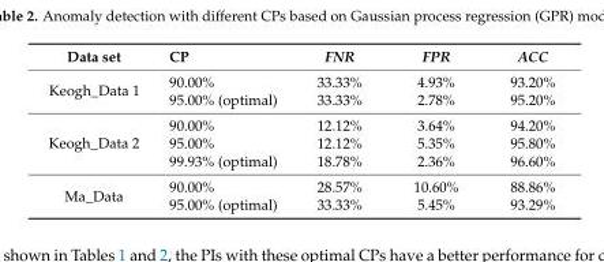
<table><thead><tr><td>Data set</td><td>CP</td><td>FNR</td><td>FPR</td><td>ACC</td></tr></thead><tbody><tr><td rowspan="2">Keogh_Data 1</td><td>90.00%</td><td>33.33%</td><td>4.93%</td><td>93.20%</td></tr><tr><td>95.00% (optimal)</td><td>33.33%</td><td>2.78%</td><td>95.20%</td></tr><tr><td rowspan="3">Keogh_Data 2</td><td>90.00%</td><td>12.12%</td><td>3.64%</td><td>94.20%</td></tr><tr><td>95.00%</td><td>12.12%</td><td>5.35%</td><td>95.80%</td></tr><tr><td>99.93% (optimal)</td><td>18.78%</td><td>2.36%</td><td>96.60%</td></tr><tr><td rowspan="2">Ma_Data</td><td>90.00%</td><td>28.57%</td><td>10.60%</td><td>88.86%</td></tr><tr><td>95.00% (optimal)</td><td>33.33%</td><td>5.45%</td><td>93.29%</td></tr></tbody></table>